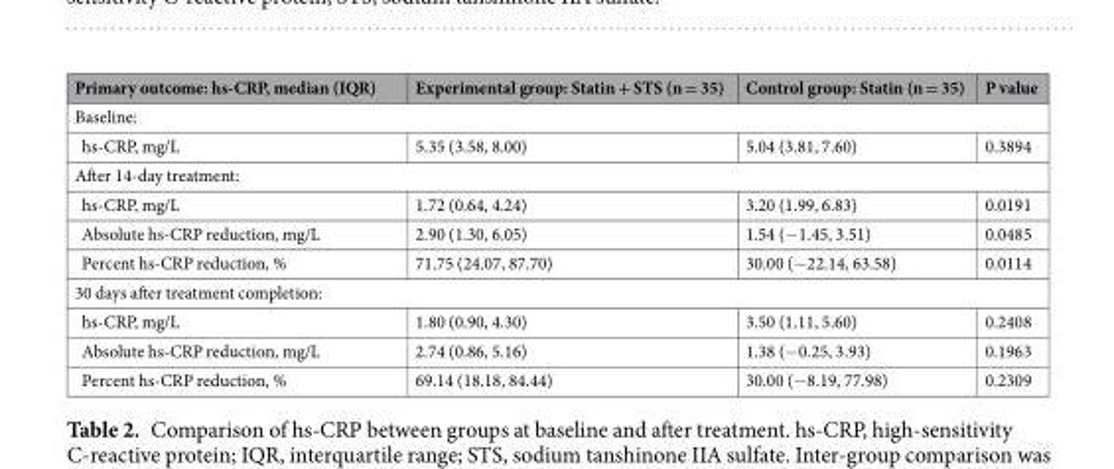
<table><thead><tr><td>Primary outcome: hs-CRP, median (IQR)</td><td>Experimental group: Statin + STS (n = 35)</td><td>Control group: Statin (n = 35)</td><td>P value</td></tr></thead><tbody><tr><td colspan="4">Baseline:</td></tr><tr><td>hs-CRP, mg/L</td><td>5.35 (3.58, 8.00)</td><td>5.04 (3.81, 7.60)</td><td>0.3894</td></tr><tr><td colspan="4">After 14-day treatment:</td></tr><tr><td>hs-CRP, mg/L</td><td>1.72 (0.64, 4.24)</td><td>3.20 (1.99, 6.83)</td><td>0.0191</td></tr><tr><td>Absolute hs-CRP reduction, mg/L</td><td>2.90 (1.30, 6.05)</td><td>1.54 (−1.45, 3.51)</td><td>0.0485</td></tr><tr><td>Percent hs-CRP reduction, %</td><td>71.75 (24.07, 87.70)</td><td>30.00 (−22.14, 63.58)</td><td>0.0114</td></tr><tr><td colspan="4">30 days after treatment completion:</td></tr><tr><td>hs-CRP, mg/L</td><td>1.80 (0.90, 4.30)</td><td>3.50 (1.11, 5.60)</td><td>0.2408</td></tr><tr><td>Absolute hs-CRP reduction, mg/L</td><td>2.74 (0.86, 5.16)</td><td>1.38 (−0.25, 3.93)</td><td>0.1963</td></tr><tr><td>Percent hs-CRP reduction, %</td><td>69.14 (18.18, 84.44)</td><td>30.00 (−8.19, 77.98)</td><td>0.2309</td></tr></tbody></table>